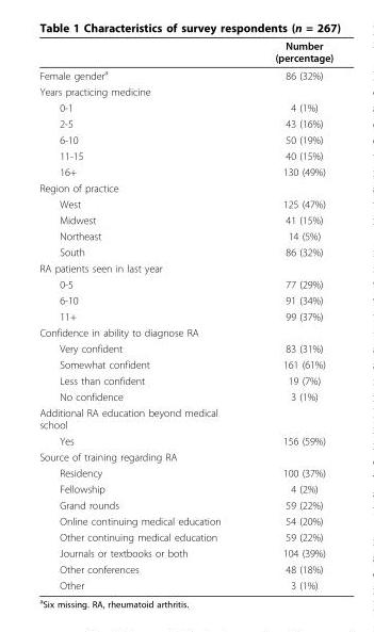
<table><thead><tr><td></td><td>Number (percentage)</td></tr></thead><tbody><tr><td>Female gender<sup>a</sup></td><td>86 (32%)</td></tr><tr><td colspan="2">Years practicing medicine</td></tr><tr><td>0-1</td><td>4 (1%)</td></tr><tr><td>2-5</td><td>43 (16%)</td></tr><tr><td>6-10</td><td>50 (19%)</td></tr><tr><td>11-15</td><td>40 (15%)</td></tr><tr><td>16+</td><td>130 (49%)</td></tr><tr><td colspan="2">Region of practice</td></tr><tr><td>West</td><td>125 (47%)</td></tr><tr><td>Midwest</td><td>41 (15%)</td></tr><tr><td>Northeast</td><td>14 (5%)</td></tr><tr><td>South</td><td>86 (32%)</td></tr><tr><td colspan="2">RA patients seen in last year</td></tr><tr><td>0-5</td><td>77 (29%)</td></tr><tr><td>6-10</td><td>91 (34%)</td></tr><tr><td>11+</td><td>99 (37%)</td></tr><tr><td colspan="2">Confidence in ability to diagnose RA</td></tr><tr><td>Very confident</td><td>83 (31%)</td></tr><tr><td>Somewhat confident</td><td>161 (61%)</td></tr><tr><td>Less than confident</td><td>19 (7%)</td></tr><tr><td>No confidence</td><td>3 (1%)</td></tr><tr><td colspan="2">Additional RA education beyond medical school</td></tr><tr><td>Yes</td><td>156 (59%)</td></tr><tr><td colspan="2">Source of training regarding RA</td></tr><tr><td>Residency</td><td>100 (37%)</td></tr><tr><td>Fellowship</td><td>4 (2%)</td></tr><tr><td>Grand rounds</td><td>59 (22%)</td></tr><tr><td>Online continuing medical education</td><td>54 (20%)</td></tr><tr><td>Other continuing medical education</td><td>59 (22%)</td></tr><tr><td>Journals or textbooks or both</td><td>104 (39%)</td></tr><tr><td>Other conferences</td><td>48 (18%)</td></tr><tr><td>Other</td><td>3 (1%)</td></tr></tbody></table>